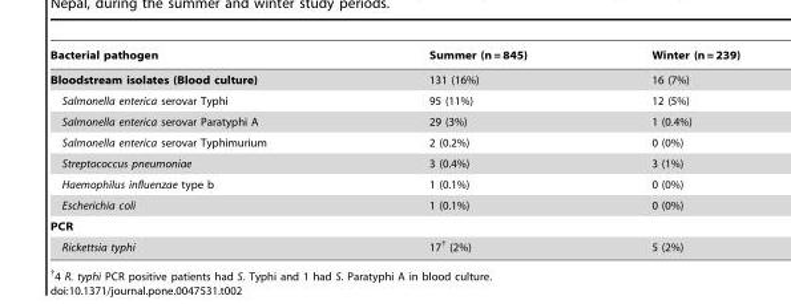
<table><thead><tr><td>Bacterial pathogen</td><td>Summer (n = 845)</td><td>Winter (n = 239)</td></tr></thead><tbody><tr><td>Bloodstream isolates (Blood culture)</td><td>131 (16%)</td><td>16 (7%)</td></tr><tr><td>Salmonella enterica serovar Typhi</td><td>95 (11%)</td><td>12 (5%)</td></tr><tr><td>Salmonella enterica serovar Paratyphi A</td><td>29 (3%)</td><td>1 (0.4%)</td></tr><tr><td>Salmonella enterica serovar Typhimurium</td><td>2 (0.2%)</td><td>0 (0%)</td></tr><tr><td>Streptococcus pneumoniae</td><td>3 (0.4%)</td><td>3 (1%)</td></tr><tr><td>Haemophilus influenzae type b</td><td>1 (0.1%)</td><td>0 (0%)</td></tr><tr><td>Escherichia coli</td><td>1 (0.1%)</td><td>0 (0%)</td></tr><tr><td colspan="3">PCR</td></tr><tr><td>Rickettsia typhi</td><td>17† (2%)</td><td>5 (2%)</td></tr></tbody></table>